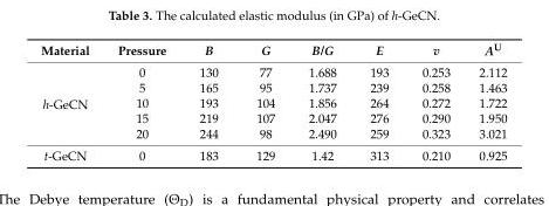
<table><thead><tr><td>Material</td><td>Pressure</td><td>B</td><td>G</td><td>B/G</td><td>E</td><td>v</td><td>A<sup>U</sup></td></tr></thead><tbody><tr><td rowspan="5">h-GeCN</td><td>0</td><td>130</td><td>77</td><td>1.688</td><td>193</td><td>0.253</td><td>2.112</td></tr><tr><td>5</td><td>165</td><td>95</td><td>1.737</td><td>239</td><td>0.258</td><td>1.463</td></tr><tr><td>10</td><td>193</td><td>104</td><td>1.856</td><td>264</td><td>0.272</td><td>1.722</td></tr><tr><td>15</td><td>219</td><td>107</td><td>2.047</td><td>276</td><td>0.290</td><td>1.950</td></tr><tr><td>20</td><td>244</td><td>98</td><td>2.490</td><td>259</td><td>0.323</td><td>3.021</td></tr><tr><td>t-GeCN</td><td>0</td><td>183</td><td>129</td><td>1.42</td><td>313</td><td>0.210</td><td>0.925</td></tr></tbody></table>